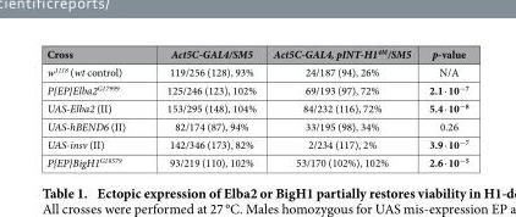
<table><thead><tr><td>Cross</td><td>Act5C-GAL4/SM5</td><td>Act5C-GAL4, pINT-H1<sup>4M</sup>/SM5</td><td>p-value</td></tr></thead><tbody><tr><td>w<sup>1118</sup> (wt control)</td><td>119/256 (128), 93%</td><td>24/187 (94), 26%</td><td>N/A</td></tr><tr><td>P{EP}Elba2<sup>G17999</sup></td><td>125/246 (123), 102%</td><td>69/193 (97), 72%</td><td>2.1 · 10<sup>-7</sup></td></tr><tr><td>UAS-Elba2 (II)</td><td>153/295 (148), 104%</td><td>84/232 (116), 72%</td><td>5.4 · 10<sup>-8</sup></td></tr><tr><td>UAS-hBEND6 (II)</td><td>82/174 (87), 94%</td><td>33/195 (98), 34%</td><td>0.26</td></tr><tr><td>UAS-insv (II)</td><td>142/346 (173), 82%</td><td>2/234 (117), 2%</td><td>3.9 · 10<sup>-7</sup></td></tr><tr><td>P{EP}BigH1<sup>G18579</sup></td><td>93/219 (110), 102%</td><td>53/170 (102%), 102%</td><td>2.6 · 10<sup>-5</sup></td></tr></tbody></table>